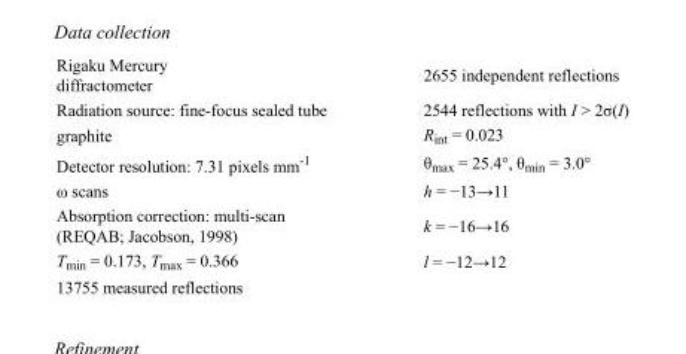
<table><tbody><tr><td>Rigaku Mercury diffractometer</td><td>2655 independent reflections</td></tr><tr><td>Radiation source: fine-focus sealed tube</td><td>2544 reflections with I &gt; 2σ(I)</td></tr><tr><td>graphite</td><td>R<sub>int</sub> = 0.023</td></tr><tr><td>Detector resolution: 7.31 pixels mm<sup>-1</sup></td><td>θ<sub>max</sub> = 25.4°, θ<sub>min</sub> = 3.0°</td></tr><tr><td>ω scans</td><td>h = −13→11</td></tr><tr><td>Absorption correction: multi-scan (REQAB; Jacobson, 1998)</td><td>k = −16→16</td></tr><tr><td>T<sub>min</sub> = 0.173, T<sub>max</sub> = 0.366</td><td>l = −12→12</td></tr><tr><td>13755 measured reflections</td><td></td></tr></tbody></table>